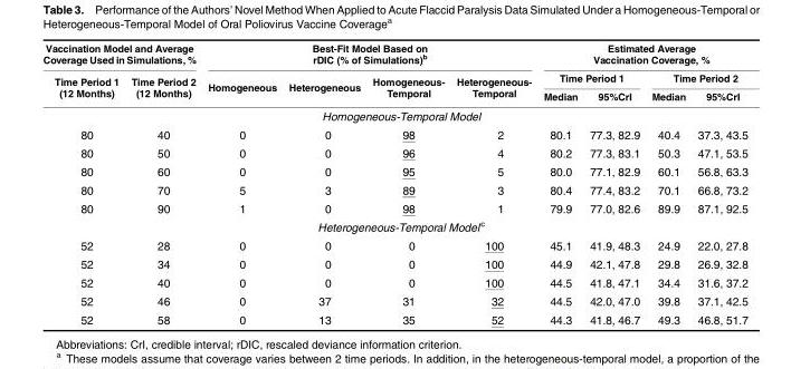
<table><thead><tr><td colspan="2">Vaccination Model and Average Coverage Used in Simulations, %</td><td colspan="4">Best-Fit Model Based on rDIC (% of Simulations)<sup>b</sup></td><td colspan="4">Estimated Average Vaccination Coverage, %</td></tr><tr><td rowspan="2">Time Period 1 (12 Months)</td><td rowspan="2">Time Period 2 (12 Months)</td><td rowspan="2">Homogeneous</td><td rowspan="2">Heterogeneous</td><td rowspan="2">Homogeneous- Temporal</td><td rowspan="2">Heterogeneous- Temporal</td><td colspan="2">Time Period 1</td><td colspan="2">Time Period 2</td></tr><tr><td>Median</td><td>95%CrI</td><td>Median</td><td>95%CrI</td></tr></thead><tbody><tr><td colspan="10">Homogeneous-Temporal Model</td></tr><tr><td>80</td><td>40</td><td>0</td><td>0</td><td>98</td><td>2</td><td>80.1</td><td>77.3, 82.9</td><td>40.4</td><td>37.3, 43.5</td></tr><tr><td>80</td><td>50</td><td>0</td><td>0</td><td>96</td><td>4</td><td>80.2</td><td>77.3, 83.1</td><td>50.3</td><td>47.1, 53.5</td></tr><tr><td>80</td><td>60</td><td>0</td><td>0</td><td>95</td><td>5</td><td>80.0</td><td>77.1, 82.9</td><td>60.1</td><td>56.8, 63.3</td></tr><tr><td>80</td><td>70</td><td>5</td><td>3</td><td>89</td><td>3</td><td>80.4</td><td>77.4, 83.2</td><td>70.1</td><td>66.8, 73.2</td></tr><tr><td>80</td><td>90</td><td>1</td><td>0</td><td>98</td><td>1</td><td>79.9</td><td>77.0, 82.6</td><td>89.9</td><td>87.1, 92.5</td></tr><tr><td colspan="10">Heterogeneous-Temporal Model <sup>c</sup></td></tr><tr><td>52</td><td>28</td><td>0</td><td>0</td><td>0</td><td>100</td><td>45.1</td><td>41.9, 48.3</td><td>24.9</td><td>22.0, 27.8</td></tr><tr><td>52</td><td>34</td><td>0</td><td>0</td><td>0</td><td>100</td><td>44.9</td><td>42.1, 47.8</td><td>29.8</td><td>26.9, 32.8</td></tr><tr><td>52</td><td>40</td><td>0</td><td>0</td><td>0</td><td>100</td><td>44.5</td><td>41.8, 47.1</td><td>34.4</td><td>31.6, 37.2</td></tr><tr><td>52</td><td>46</td><td>0</td><td>37</td><td>31</td><td>32</td><td>44.5</td><td>42.0, 47.0</td><td>39.8</td><td>37.1, 42.5</td></tr><tr><td>52</td><td>58</td><td>0</td><td>13</td><td>35</td><td>52</td><td>44.3</td><td>41.8, 46.7</td><td>49.3</td><td>46.8, 51.7</td></tr></tbody></table>